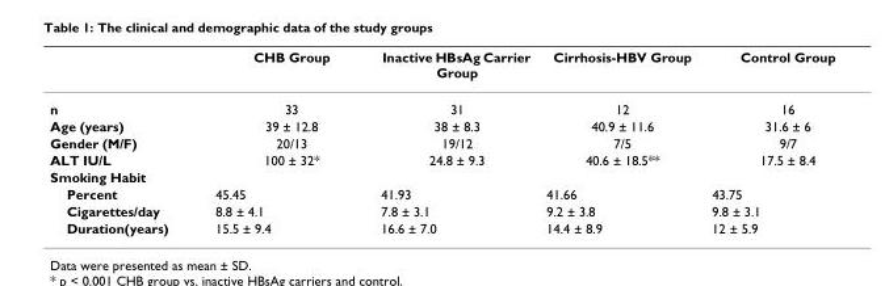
<table><thead><tr><td></td><td>CHB Group</td><td>Inactive HBsAg Carrier Group</td><td>Cirrhosis-HBV Group</td><td>Control Group</td></tr></thead><tbody><tr><td>n</td><td>33</td><td>31</td><td>12</td><td>16</td></tr><tr><td>Age (years)</td><td>39 ± 12.8</td><td>38 ± 8.3</td><td>40.9 ± 11.6</td><td>31.6 ± 6</td></tr><tr><td>Gender (M/F)</td><td>20/13</td><td>19/12</td><td>7/5</td><td>9/7</td></tr><tr><td>ALT IU/L</td><td>100 ± 32*</td><td>24.8 ± 9.3</td><td>40.6 ± 18.5**</td><td>17.5 ± 8.4</td></tr><tr><td colspan="5">Smoking Habit</td></tr><tr><td>Percent</td><td>45.45</td><td>41.93</td><td>41.66</td><td>43.75</td></tr><tr><td>Cigarettes/day</td><td>8.8 ± 4.1</td><td>7.8 ± 3.1</td><td>9.2 ± 3.8</td><td>9.8 ± 3.1</td></tr><tr><td>Duration(years)</td><td>15.5 ± 9.4</td><td>16.6 ± 7.0</td><td>14.4 ± 8.9</td><td>12 ± 5.9</td></tr></tbody></table>